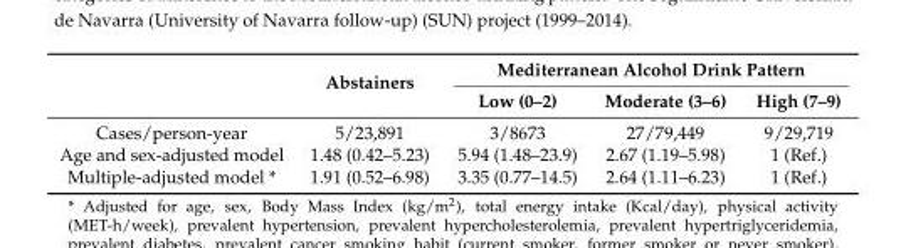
<table><thead><tr><td rowspan="2"></td><td rowspan="2">Abstainers</td><td colspan="3">Mediterranean Alcohol Drink Pattern</td></tr><tr><td>Low (0–2)</td><td>Moderate (3–6)</td><td>High (7–9)</td></tr></thead><tbody><tr><td>Cases/person-year</td><td>5/23,891</td><td>3/8673</td><td>27/79,449</td><td>9/29,719</td></tr><tr><td>Age and sex-adjusted model</td><td>1.48 (0.42–5.23)</td><td>5.94 (1.48–23.9)</td><td>2.67 (1.19–5.98)</td><td>1 (Ref.)</td></tr><tr><td>Multiple-adjusted model *</td><td>1.91 (0.52–6.98)</td><td>3.35 (0.77–14.5)</td><td>2.64 (1.11–6.23)</td><td>1 (Ref.)</td></tr></tbody></table>